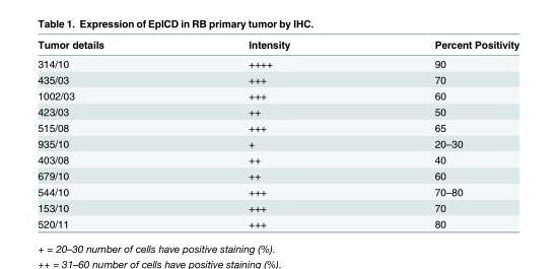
<table><thead><tr><td>Tumor details</td><td>Intensity</td><td>Percent Positivity</td></tr></thead><tbody><tr><td>314/10</td><td>++++</td><td>90</td></tr><tr><td>435/03</td><td>+++</td><td>70</td></tr><tr><td>1002/03</td><td>+++</td><td>60</td></tr><tr><td>423/03</td><td>++</td><td>50</td></tr><tr><td>515/08</td><td>+++</td><td>65</td></tr><tr><td>935/10</td><td>+</td><td>20–30</td></tr><tr><td>403/08</td><td>++</td><td>40</td></tr><tr><td>679/10</td><td>++</td><td>60</td></tr><tr><td>544/10</td><td>+++</td><td>70–80</td></tr><tr><td>153/10</td><td>+++</td><td>70</td></tr><tr><td>520/11</td><td>+++</td><td>80</td></tr></tbody></table>